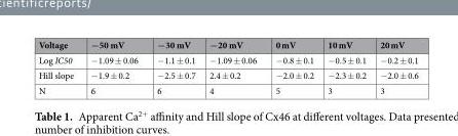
<table><thead><tr><td>Voltage</td><td>−50 mV</td><td>−30 mV</td><td>−20 mV</td><td>0 mV</td><td>10 mV</td><td>20 mV</td></tr></thead><tbody><tr><td>Log IC50</td><td>−1.09 ± 0.06</td><td>−1.1 ± 0.1</td><td>−1.09 ± 0.06</td><td>−0.8 ± 0.1</td><td>−0.5 ± 0.1</td><td>−0.2 ± 0.1</td></tr><tr><td>Hill slope</td><td>−1.9 ± 0.2</td><td>−2.5 ± 0.7</td><td>2.4 ± 0.2</td><td>−2.0 ± 0.2</td><td>−2.3 ± 0.2</td><td>−2.0 ± 0.6</td></tr><tr><td>N</td><td>6</td><td>6</td><td>4</td><td>5</td><td>3</td><td>3</td></tr></tbody></table>